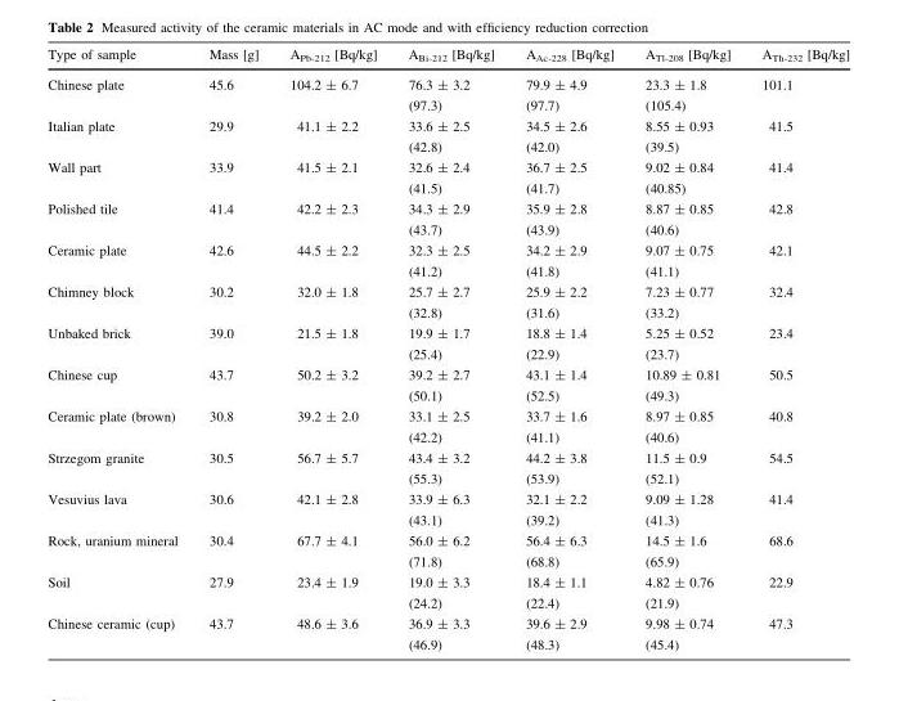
<table><thead><tr><td>Type of sample</td><td>Mass [g]</td><td>A<sub>Pb-212</sub> [Bq/kg]</td><td>A<sub>Bi-212</sub> [Bq/kg]</td><td>A<sub>Ac-228</sub> [Bq/kg]</td><td>A<sub>Tl-208</sub> [Bq/kg]</td><td>A<sub>Th-232</sub> [Bq/kg]</td></tr></thead><tbody><tr><td>Chinese plate</td><td>45.6</td><td>104.2 ± 6.7</td><td>76.3 ± 3.2 (97.3)</td><td>79.9 ± 4.9 (97.7)</td><td>23.3 ± 1.8 (105.4)</td><td>101.1</td></tr><tr><td>Italian plate</td><td>29.9</td><td>41.1 ± 2.2</td><td>33.6 ± 2.5 (42.8)</td><td>34.5 ± 2.6 (42.0)</td><td>8.55 ± 0.93 (39.5)</td><td>41.5</td></tr><tr><td>Wall part</td><td>33.9</td><td>41.5 ± 2.1</td><td>32.6 ± 2.4 (41.5)</td><td>36.7 ± 2.5 (41.7)</td><td>9.02 ± 0.84 (40.85)</td><td>41.4</td></tr><tr><td>Polished tile</td><td>41.4</td><td>42.2 ± 2.3</td><td>34.3 ± 2.9 (43.7)</td><td>35.9 ± 2.8 (43.9)</td><td>8.87 ± 0.85 (40.6)</td><td>42.8</td></tr><tr><td>Ceramic plate</td><td>42.6</td><td>44.5 ± 2.2</td><td>32.3 ± 2.5 (41.2)</td><td>34.2 ± 2.9 (41.8)</td><td>9.07 ± 0.75 (41.1)</td><td>42.1</td></tr><tr><td>Chimney block</td><td>30.2</td><td>32.0 ± 1.8</td><td>25.7 ± 2.7 (32.8)</td><td>25.9 ± 2.2 (31.6)</td><td>7.23 ± 0.77 (33.2)</td><td>32.4</td></tr><tr><td>Unbaked brick</td><td>39.0</td><td>21.5 ± 1.8</td><td>19.9 ± 1.7 (25.4)</td><td>18.8 ± 1.4 (22.9)</td><td>5.25 ± 0.52 (23.7)</td><td>23.4</td></tr><tr><td>Chinese cup</td><td>43.7</td><td>50.2 ± 3.2</td><td>39.2 ± 2.7 (50.1)</td><td>43.1 ± 1.4 (52.5)</td><td>10.89 ± 0.81 (49.3)</td><td>50.5</td></tr><tr><td>Ceramic plate (brown)</td><td>30.8</td><td>39.2 ± 2.0</td><td>33.1 ± 2.5 (42.2)</td><td>33.7 ± 1.6 (41.1)</td><td>8.97 ± 0.85 (40.6)</td><td>40.8</td></tr><tr><td>Strzegom granite</td><td>30.5</td><td>56.7 ± 5.7</td><td>43.4 ± 3.2 (55.3)</td><td>44.2 ± 3.8 (53.9)</td><td>11.5 ± 0.9 (52.1)</td><td>54.5</td></tr><tr><td>Vesuvius lava</td><td>30.6</td><td>42.1 ± 2.8</td><td>33.9 ± 6.3 (43.1)</td><td>32.1 ± 2.2 (39.2)</td><td>9.09 ± 1.28 (41.3)</td><td>41.4</td></tr><tr><td>Rock, uranium mineral</td><td>30.4</td><td>67.7 ± 4.1</td><td>56.0 ± 6.2 (71.8)</td><td>56.4 ± 6.3 (68.8)</td><td>14.5 ± 1.6 (65.9)</td><td>68.6</td></tr><tr><td>Soil</td><td>27.9</td><td>23.4 ± 1.9</td><td>19.0 ± 3.3 (24.2)</td><td>18.4 ± 1.1 (22.4)</td><td>4.82 ± 0.76 (21.9)</td><td>22.9</td></tr><tr><td>Chinese ceramic (cup)</td><td>43.7</td><td>48.6 ± 3.6</td><td>36.9 ± 3.3 (46.9)</td><td>39.6 ± 2.9 (48.3)</td><td>9.98 ± 0.74 (45.4)</td><td>47.3</td></tr></tbody></table>